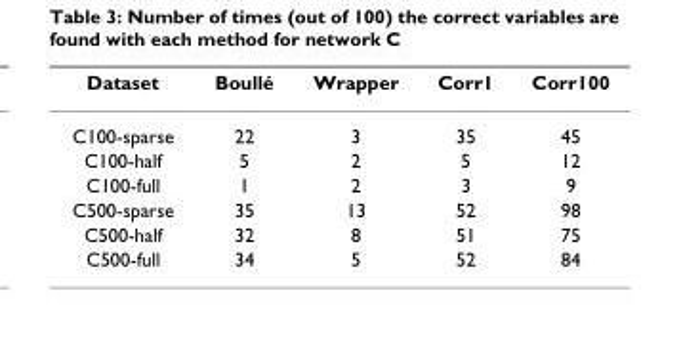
<table><thead><tr><td>Dataset</td><td>Boullé</td><td>Wrapper</td><td>Corr1</td><td>Corr100</td></tr></thead><tbody><tr><td>C100-sparse</td><td>22</td><td>3</td><td>35</td><td>45</td></tr><tr><td>C100-half</td><td>5</td><td>2</td><td>5</td><td>12</td></tr><tr><td>C100-full</td><td>1</td><td>2</td><td>3</td><td>9</td></tr><tr><td>C500-sparse</td><td>35</td><td>13</td><td>52</td><td>98</td></tr><tr><td>C500-half</td><td>32</td><td>8</td><td>51</td><td>75</td></tr><tr><td>C500-full</td><td>34</td><td>5</td><td>52</td><td>84</td></tr></tbody></table>